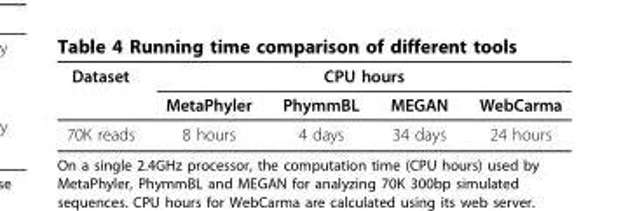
<table><thead><tr><td rowspan="2">Dataset</td><td colspan="4">CPU hours</td></tr><tr><td>MetaPhyler</td><td>PhymmBL</td><td>MEGAN</td><td>WebCarma</td></tr></thead><tbody><tr><td>70K reads</td><td>8 hours</td><td>4 days</td><td>34 days</td><td>24 hours</td></tr></tbody></table>